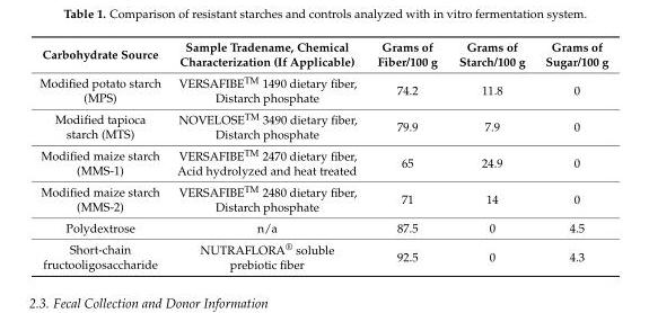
<table><thead><tr><td>Carbohydrate Source</td><td>Sample Tradename, Chemical Characterization (If Applicable)</td><td>Grams of Fiber/100 g</td><td>Grams of Starch/100 g</td><td>Grams of Sugar/100 g</td></tr></thead><tbody><tr><td>Modified potato starch (MPS)</td><td>VERSAFIBE<sup>TM</sup> 1490 dietary fiber, Distarch phosphate</td><td>74.2</td><td>11.8</td><td>0</td></tr><tr><td>Modified tapioca starch (MTS)</td><td>NOVELOSE<sup>TM</sup> 3490 dietary fiber, Distarch phosphate</td><td>79.9</td><td>7.9</td><td>0</td></tr><tr><td>Modified maize starch (MMS-1)</td><td>VERSAFIBE<sup>TM</sup> 2470 dietary fiber, Acid hydrolyzed and heat treated</td><td>65</td><td>24.9</td><td>0</td></tr><tr><td>Modified maize starch (MMS-2)</td><td>VERSAFIBE<sup>TM</sup> 2480 dietary fiber, Distarch phosphate</td><td>71</td><td>14</td><td>0</td></tr><tr><td>Polydextrose</td><td>n/a</td><td>87.5</td><td>0</td><td>4.5</td></tr><tr><td>Short-chain fructooligosaccharide</td><td>NUTRAFLORA<sup>®</sup> soluble prebiotic fiber</td><td>92.5</td><td>0</td><td>4.3</td></tr></tbody></table>